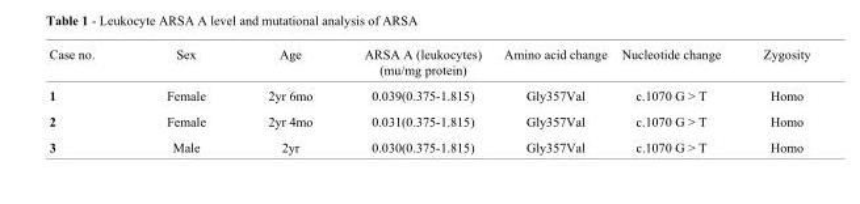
<table><thead><tr><td>Case no.</td><td>Sex</td><td>Age</td><td>ARSA A (leukocytes) (mu/mg protein)</td><td>Amino acid change</td><td>Nucleotide change</td><td>Zygosity</td></tr></thead><tbody><tr><td>1</td><td>Female</td><td>2yr 6mo</td><td>0.039(0.375-1.815)</td><td>Gly357Val</td><td>c.1070 G &gt; T</td><td>Homo</td></tr><tr><td>2</td><td>Female</td><td>2yr 4mo</td><td>0.031(0.375-1.815)</td><td>Gly357Val</td><td>c.1070 G &gt; T</td><td>Homo</td></tr><tr><td>3</td><td>Male</td><td>2yr</td><td>0.030(0.375-1.815)</td><td>Gly357Val</td><td>c.1070 G &gt; T</td><td>Homo</td></tr></tbody></table>